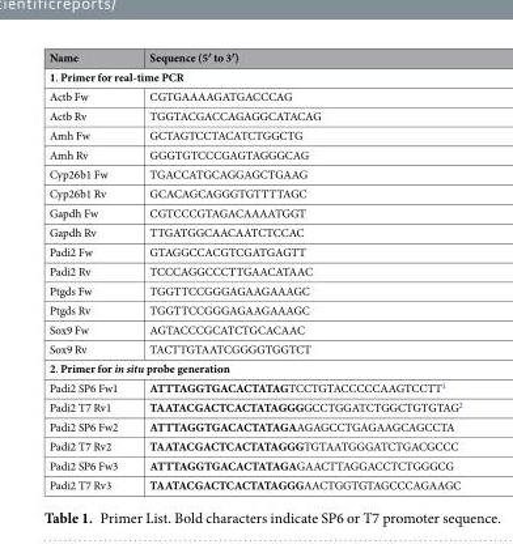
<table><thead><tr><td>Name</td><td>Sequence (5′ to 3′)</td></tr></thead><tbody><tr><td colspan="2">1. Primer for real-time PCR</td></tr><tr><td>Actb Fw</td><td>CGTGAAAAGATGACCCAG</td></tr><tr><td>Actb Rv</td><td>TGGTACGACCAGAGGCATACAG</td></tr><tr><td>Amh Fw</td><td>GCTAGTCCTACATCTGGCTG</td></tr><tr><td>Amh Rv</td><td>GGGTGTCCCGAGTAGGGCAG</td></tr><tr><td>Cyp26b1 Fw</td><td>TGACCATGCAGGAGCTGAAG</td></tr><tr><td>Cyp26b1 Rv</td><td>GCACAGCAGGGTGTTTTAGC</td></tr><tr><td>Gapdh Fw</td><td>CGTCCCGTAGACAAAATGGT</td></tr><tr><td>Gapdh Rv</td><td>TTGATGGCAACAATCTCCAC</td></tr><tr><td>Padi2 Fw</td><td>GTAGGCCACGTCGATGAGTT</td></tr><tr><td>Padi2 Rv</td><td>TCCCAGGCCCTTGAACATAAC</td></tr><tr><td>Ptgds Fw</td><td>TGGTTCCGGGAGAAGAAAGC</td></tr><tr><td>Ptgds Rv</td><td>TGGTTCCGGGAGAAGAAAGC</td></tr><tr><td>Sox9 Fw</td><td>AGTACCCGCATCTGCACAAC</td></tr><tr><td>Sox9 Rv</td><td>TACTTGTAATCGGGGTGGTCT</td></tr><tr><td colspan="2">2. Primer for in situ probe generation</td></tr><tr><td>Padi2 SP6 Fw1</td><td>ATTTAGGTGACACTATAGTCCTGTACCCCCAAGTCCTT<sup>1</sup></td></tr><tr><td>Padi2 T7 Rv1</td><td>TAATACGACTCACTATAGGGGCCTGGATCTGGCTGTGTAG<sup>2</sup></td></tr><tr><td>Padi2 SP6 Fw2</td><td>ATTTAGGTGACACTATAGAAGAGCCTGAGAAGCAGCCTA</td></tr><tr><td>Padi2 T7 Rv2</td><td>TAATACGACTCACTATAGGGTGTAATGGGATCTGACGCCC</td></tr><tr><td>Padi2 SP6 Fw3</td><td>ATTTAGGTGACACTATAGAGAACTTAGGACCTCTGGGCG</td></tr><tr><td>Padi2 T7 Rv3</td><td>TAATACGACTCACTATAGGGAACTGGTGTAGCCCAGAAGC</td></tr></tbody></table>